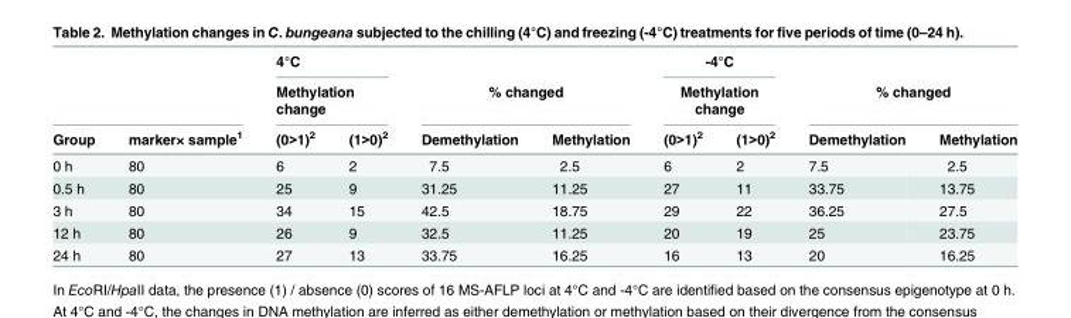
<table><thead><tr><td rowspan="3">Group</td><td rowspan="3">marker× sample<sup>1</sup></td><td rowspan="2" colspan="2">4°C Methylation change</td><td></td><td></td><td rowspan="2" colspan="2">-4°C Methylation change</td><td></td><td></td></tr><tr><td colspan="2">% changed</td><td colspan="2">% changed</td></tr><tr><td>(0&gt;1)<sup>2</sup></td><td>(1&gt;0)<sup>2</sup></td><td>Demethylation</td><td>Methylation</td><td>(0&gt;1)<sup>2</sup></td><td>(1&gt;0)<sup>2</sup></td><td>Demethylation</td><td>Methylation</td></tr></thead><tbody><tr><td>0 h</td><td>80</td><td>6</td><td>2</td><td>7.5</td><td>2.5</td><td>6</td><td>2</td><td>7.5</td><td>2.5</td></tr><tr><td>0.5 h</td><td>80</td><td>25</td><td>9</td><td>31.25</td><td>11.25</td><td>27</td><td>11</td><td>33.75</td><td>13.75</td></tr><tr><td>3 h</td><td>80</td><td>34</td><td>15</td><td>42.5</td><td>18.75</td><td>29</td><td>22</td><td>36.25</td><td>27.5</td></tr><tr><td>12 h</td><td>80</td><td>26</td><td>9</td><td>32.5</td><td>11.25</td><td>20</td><td>19</td><td>25</td><td>23.75</td></tr><tr><td>24 h</td><td>80</td><td>27</td><td>13</td><td>33.75</td><td>16.25</td><td>16</td><td>13</td><td>20</td><td>16.25</td></tr></tbody></table>